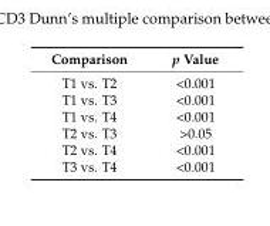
<table><thead><tr><td>Comparison</td><td>p Value</td></tr></thead><tbody><tr><td>T1 vs. T2</td><td>&lt;0.001</td></tr><tr><td>T1 vs. T3</td><td>&lt;0.001</td></tr><tr><td>T1 vs. T4</td><td>&lt;0.001</td></tr><tr><td>T2 vs. T3</td><td>&gt;0.05</td></tr><tr><td>T2 vs. T4</td><td>&lt;0.001</td></tr><tr><td>T3 vs. T4</td><td>&lt;0.001</td></tr></tbody></table>